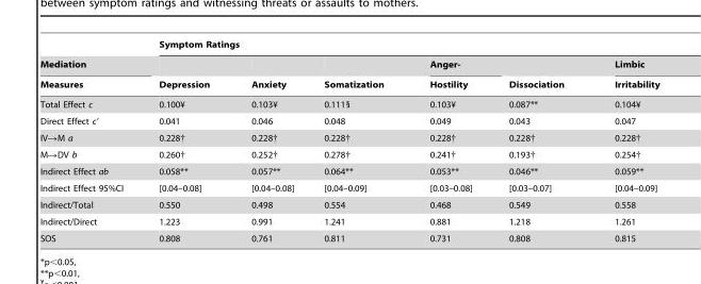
<table><thead><tr><td rowspan="3">Mediation Measures</td><td colspan="6">Symptom Ratings</td></tr><tr><td rowspan="2">Depression</td><td rowspan="2">Anxiety</td><td rowspan="2">Somatization</td><td rowspan="2">Anger- Hostility</td><td rowspan="2">Dissociation</td><td rowspan="2">Limbic Irritability</td></tr><tr></tr></thead><tbody><tr><td>Total Effect c</td><td>0.100¥</td><td>0.103¥</td><td>0.111§</td><td>0.103¥</td><td>0.087**</td><td>0.104¥</td></tr><tr><td>Direct Effect c′</td><td>0.041</td><td>0.046</td><td>0.048</td><td>0.049</td><td>0.043</td><td>0.047</td></tr><tr><td>IV→M a</td><td>0.228†</td><td>0.228†</td><td>0.228†</td><td>0.228†</td><td>0.228†</td><td>0.228†</td></tr><tr><td>M→DV b</td><td>0.260†</td><td>0.252†</td><td>0.278†</td><td>0.241†</td><td>0.193†</td><td>0.254†</td></tr><tr><td>Indirect Effect ab</td><td>0.058**</td><td>0.057**</td><td>0.064**</td><td>0.053**</td><td>0.046**</td><td>0.059**</td></tr><tr><td>Indirect Effect 95%CI</td><td>[0.04–0.08]</td><td>[0.04–0.08]</td><td>[0.04–0.09]</td><td>[0.03–0.08]</td><td>[0.03–0.07]</td><td>[0.04–0.09]</td></tr><tr><td>Indirect/Total</td><td>0.550</td><td>0.498</td><td>0.554</td><td>0.468</td><td>0.549</td><td>0.558</td></tr><tr><td>Indirect/Direct</td><td>1.223</td><td>0.991</td><td>1.241</td><td>0.881</td><td>1.218</td><td>1.261</td></tr><tr><td>SOS</td><td>0.808</td><td>0.761</td><td>0.811</td><td>0.731</td><td>0.808</td><td>0.815</td></tr></tbody></table>